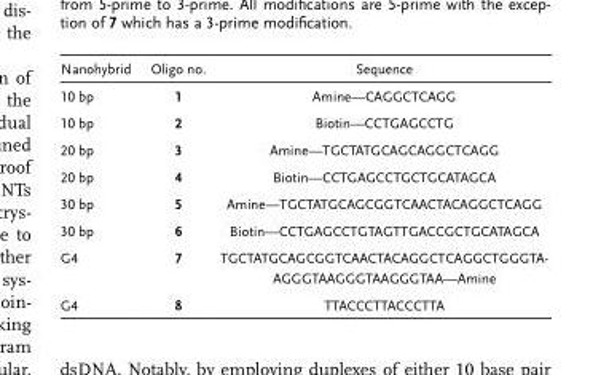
<table><thead><tr><td>Nanohybrid</td><td>Oligo no.</td><td>Sequence</td></tr></thead><tbody><tr><td>10 bp</td><td>1</td><td>Amine—CAGGCTCAGG</td></tr><tr><td>10 bp</td><td>2</td><td>Biotin—CCTGAGCCTG</td></tr><tr><td>20 bp</td><td>3</td><td>Amine—TGCTATGCAGCAGGCTCAGG</td></tr><tr><td>20 bp</td><td>4</td><td>Biotin—CCTGAGCCTGCTGCATAGCA</td></tr><tr><td>30 bp</td><td>5</td><td>Amine—TGCTATGCAGCGGTCAACTACAGGCTCAGG</td></tr><tr><td>30 bp</td><td>6</td><td>Biotin—CCTGAGCCTGTAGTTGACCGCTGCATAGCA</td></tr><tr><td>G4</td><td>7</td><td>TGCTATGCAGCGGTCAACTACAGGCTCAGGCTGGGTA- AGGGTAAGGGTAAGGGTAA—Amine</td></tr><tr><td>G4</td><td>8</td><td>TTACCCTTACCCTTA</td></tr></tbody></table>